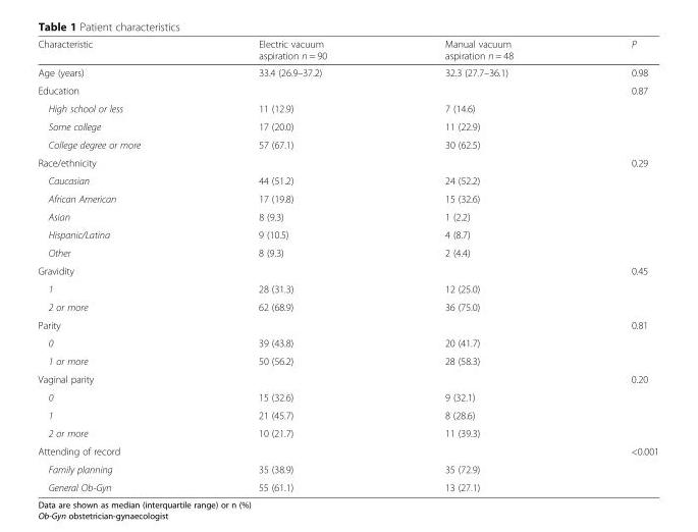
<table><thead><tr><td>Characteristic</td><td>Electric vacuum aspiration n = 90</td><td>Manual vacuum aspiration n = 48</td><td>P</td></tr></thead><tbody><tr><td>Age (years)</td><td>33.4 (26.9–37.2)</td><td>32.3 (27.7–36.1)</td><td>0.98</td></tr><tr><td colspan="3">Education</td><td>0.87</td></tr><tr><td>High school or less</td><td>11 (12.9)</td><td>7 (14.6)</td><td></td></tr><tr><td>Some college</td><td>17 (20.0)</td><td>11 (22.9)</td><td></td></tr><tr><td>College degree or more</td><td>57 (67.1)</td><td>30 (62.5)</td><td></td></tr><tr><td colspan="3">Race/ethnicity</td><td>0.29</td></tr><tr><td>Caucasian</td><td>44 (51.2)</td><td>24 (52.2)</td><td></td></tr><tr><td>African American</td><td>17 (19.8)</td><td>15 (32.6)</td><td></td></tr><tr><td>Asian</td><td>8 (9.3)</td><td>1 (2.2)</td><td></td></tr><tr><td>Hispanic/Latina</td><td>9 (10.5)</td><td>4 (8.7)</td><td></td></tr><tr><td>Other</td><td>8 (9.3)</td><td>2 (4.4)</td><td></td></tr><tr><td colspan="3">Gravidity</td><td>0.45</td></tr><tr><td>1</td><td>28 (31.3)</td><td>12 (25.0)</td><td></td></tr><tr><td>2 or more</td><td>62 (68.9)</td><td>36 (75.0)</td><td></td></tr><tr><td colspan="3">Parity</td><td>0.81</td></tr><tr><td>0</td><td>39 (43.8)</td><td>20 (41.7)</td><td></td></tr><tr><td>1 or more</td><td>50 (56.2)</td><td>28 (58.3)</td><td></td></tr><tr><td colspan="3">Vaginal parity</td><td>0.20</td></tr><tr><td>0</td><td>15 (32.6)</td><td>9 (32.1)</td><td></td></tr><tr><td>1</td><td>21 (45.7)</td><td>8 (28.6)</td><td></td></tr><tr><td>2 or more</td><td>10 (21.7)</td><td>11 (39.3)</td><td></td></tr><tr><td colspan="3">Attending of record</td><td>&lt;0.001</td></tr><tr><td>Family planning</td><td>35 (38.9)</td><td>35 (72.9)</td><td></td></tr><tr><td>General Ob-Gyn</td><td>55 (61.1)</td><td>13 (27.1)</td><td></td></tr></tbody></table>